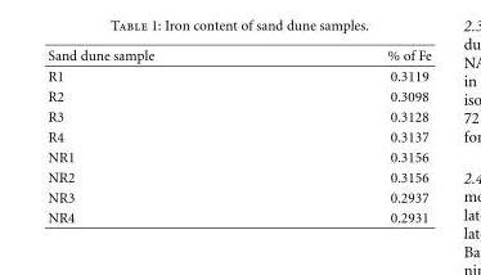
<table><thead><tr><td>Sand dune sample</td><td>% of Fe</td></tr></thead><tbody><tr><td>R1</td><td>0.3119</td></tr><tr><td>R2</td><td>0.3098</td></tr><tr><td>R3</td><td>0.3128</td></tr><tr><td>R4</td><td>0.3137</td></tr><tr><td>NR1</td><td>0.3156</td></tr><tr><td>NR2</td><td>0.3156</td></tr><tr><td>NR3</td><td>0.2937</td></tr><tr><td>NR4</td><td>0.2931</td></tr></tbody></table>